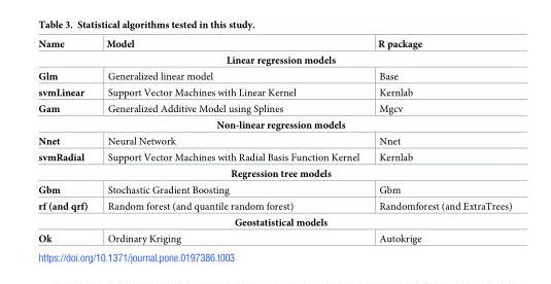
<table><thead><tr><td>Name</td><td>Model</td><td>R package</td></tr></thead><tbody><tr><td colspan="3">Linear regression models</td></tr><tr><td>Glm</td><td>Generalized linear model</td><td>Base</td></tr><tr><td>svmLinear</td><td>Support Vector Machines with Linear Kernel</td><td>Kernlab</td></tr><tr><td>Gam</td><td>Generalized Additive Model using Splines</td><td>Mgcv</td></tr><tr><td colspan="3">Non-linear regression models</td></tr><tr><td>Nnet</td><td>Neural Network</td><td>Nnet</td></tr><tr><td>svmRadial</td><td>Support Vector Machines with Radial Basis Function Kernel</td><td>Kernlab</td></tr><tr><td colspan="3">Regression tree models</td></tr><tr><td>Gbm</td><td>Stochastic Gradient Boosting</td><td>Gbm</td></tr><tr><td>rf (and qrf)</td><td>Random forest (and quantile random forest)</td><td>Randomforest (and ExtraTrees)</td></tr><tr><td colspan="3">Geostatistical models</td></tr><tr><td>Ok</td><td>Ordinary Kriging</td><td>Autokrige</td></tr></tbody></table>